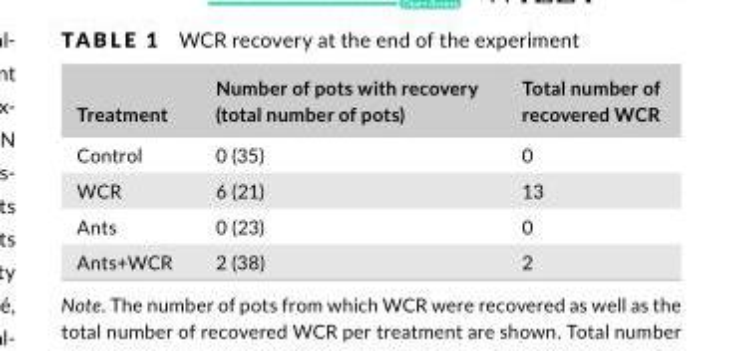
<table><thead><tr><td>Treatment</td><td>Number of pots with recovery (total number of pots)</td><td>Total number of recovered WCR</td></tr></thead><tbody><tr><td>Control</td><td>0 (35)</td><td>0</td></tr><tr><td>WCR</td><td>6 (21)</td><td>13</td></tr><tr><td>Ants</td><td>0 (23)</td><td>0</td></tr><tr><td>Ants+WCR</td><td>2 (38)</td><td>2</td></tr></tbody></table>